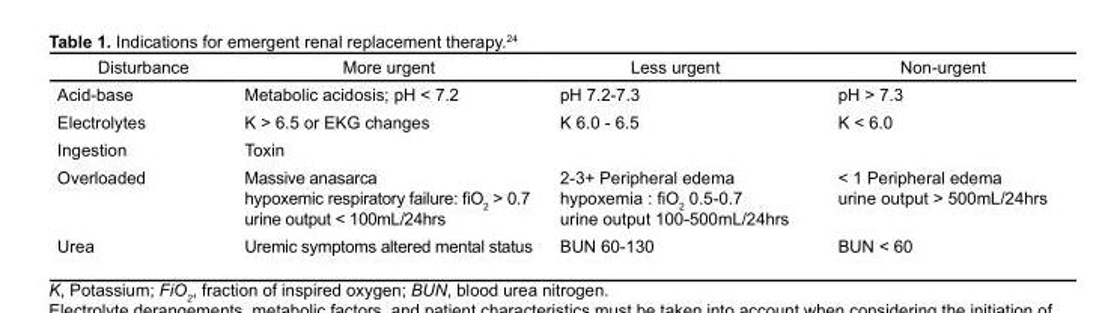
<table><thead><tr><td>Disturbance</td><td>More urgent</td><td>Less urgent</td><td>Non-urgent</td></tr></thead><tbody><tr><td>Acid-base</td><td>Metabolic acidosis; pH &lt; 7.2</td><td>pH 7.2-7.3</td><td>pH &gt; 7.3</td></tr><tr><td>Electrolytes</td><td>K &gt; 6.5 or EKG changes</td><td>K 6.0 - 6.5</td><td>K &lt; 6.0</td></tr><tr><td>Ingestion</td><td>Toxin</td><td></td><td></td></tr><tr><td>Overloaded</td><td>Massive anasarca hypoxemic respiratory failure: fiO<sub>2</sub> &gt; 0.7 urine output &lt; 100mL/24hrs</td><td>2-3+ Peripheral edema hypoxemia : fiO<sub>2</sub> 0.5-0.7 urine output 100-500mL/24hrs</td><td>&lt; 1 Peripheral edema urine output &gt; 500mL/24hrs</td></tr><tr><td>Urea</td><td>Uremic symptoms altered mental status</td><td>BUN 60-130</td><td>BUN &lt; 60</td></tr></tbody></table>